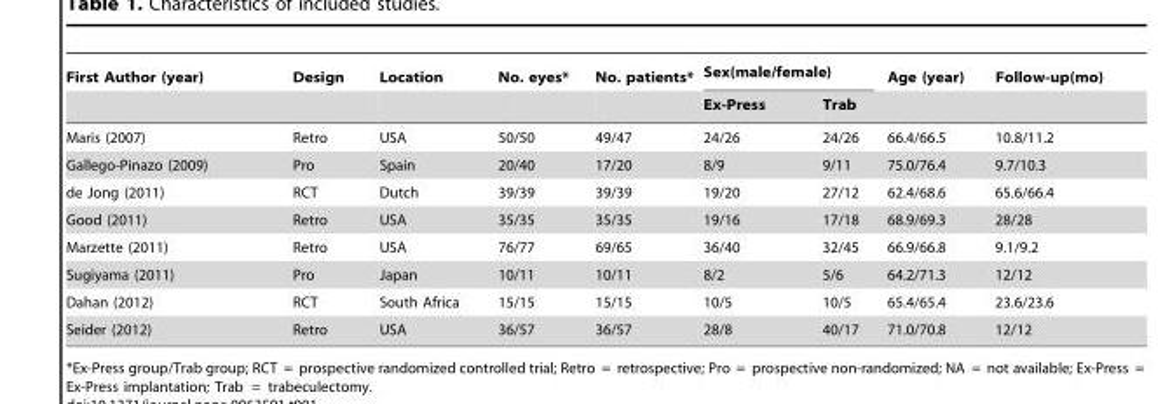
<table><thead><tr><td rowspan="2">First Author (year)</td><td rowspan="2">Design</td><td rowspan="2">Location</td><td rowspan="2">No. eyes*</td><td rowspan="2">No. patients*</td><td colspan="2">Sex(male/female)</td><td rowspan="2">Age (year)</td><td rowspan="2">Follow-up(mo)</td></tr><tr><td>Ex-Press</td><td>Trab</td></tr></thead><tbody><tr><td>Maris (2007)</td><td>Retro</td><td>USA</td><td>50/50</td><td>49/47</td><td>24/26</td><td>24/26</td><td>66.4/66.5</td><td>10.8/11.2</td></tr><tr><td>Gallego-Pinazo (2009)</td><td>Pro</td><td>Spain</td><td>20/40</td><td>17/20</td><td>8/9</td><td>9/11</td><td>75.0/76.4</td><td>9.7/10.3</td></tr><tr><td>de Jong (2011)</td><td>RCT</td><td>Dutch</td><td>39/39</td><td>39/39</td><td>19/20</td><td>27/12</td><td>62.4/68.6</td><td>65.6/66.4</td></tr><tr><td>Good (2011)</td><td>Retro</td><td>USA</td><td>35/35</td><td>35/35</td><td>19/16</td><td>17/18</td><td>68.9/69.3</td><td>28/28</td></tr><tr><td>Marzette (2011)</td><td>Retro</td><td>USA</td><td>76/77</td><td>69/65</td><td>36/40</td><td>32/45</td><td>66.9/66.8</td><td>9.1/9.2</td></tr><tr><td>Sugiyama (2011)</td><td>Pro</td><td>Japan</td><td>10/11</td><td>10/11</td><td>8/2</td><td>5/6</td><td>64.2/71.3</td><td>12/12</td></tr><tr><td>Dahan (2012)</td><td>RCT</td><td>South Africa</td><td>15/15</td><td>15/15</td><td>10/5</td><td>10/5</td><td>65.4/65.4</td><td>23.6/23.6</td></tr><tr><td>Seider (2012)</td><td>Retro</td><td>USA</td><td>36/57</td><td>36/57</td><td>28/8</td><td>40/17</td><td>71.0/70.8</td><td>12/12</td></tr></tbody></table>